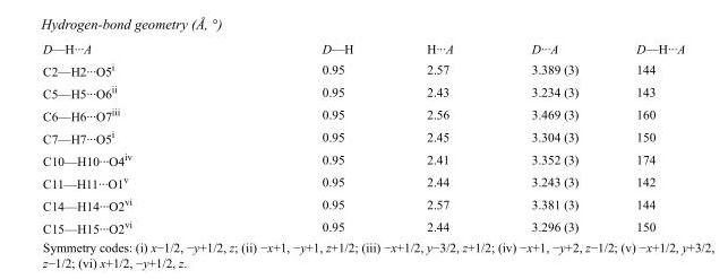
<table><tbody><tr><td>D—H···A</td><td>D—H</td><td>H···A</td><td>D···A</td><td>D—H···A</td></tr><tr><td>C2—H2···O5<sup>i</sup></td><td>0.95</td><td>2.57</td><td>3.389 (3)</td><td>144</td></tr><tr><td>C5—H5···O6<sup>ii</sup></td><td>0.95</td><td>2.43</td><td>3.234 (3)</td><td>143</td></tr><tr><td>C6—H6···O7<sup>iii</sup></td><td>0.95</td><td>2.56</td><td>3.469 (3)</td><td>160</td></tr><tr><td>C7—H7···O5<sup>i</sup></td><td>0.95</td><td>2.45</td><td>3.304 (3)</td><td>150</td></tr><tr><td>C10—H10···O4<sup>iv</sup></td><td>0.95</td><td>2.41</td><td>3.352 (3)</td><td>174</td></tr><tr><td>C11—H11···O1<sup>v</sup></td><td>0.95</td><td>2.44</td><td>3.243 (3)</td><td>142</td></tr><tr><td>C14—H14···O2<sup>vi</sup></td><td>0.95</td><td>2.57</td><td>3.381 (3)</td><td>144</td></tr><tr><td>C15—H15···O2<sup>vi</sup></td><td>0.95</td><td>2.44</td><td>3.296 (3)</td><td>150</td></tr></tbody></table>